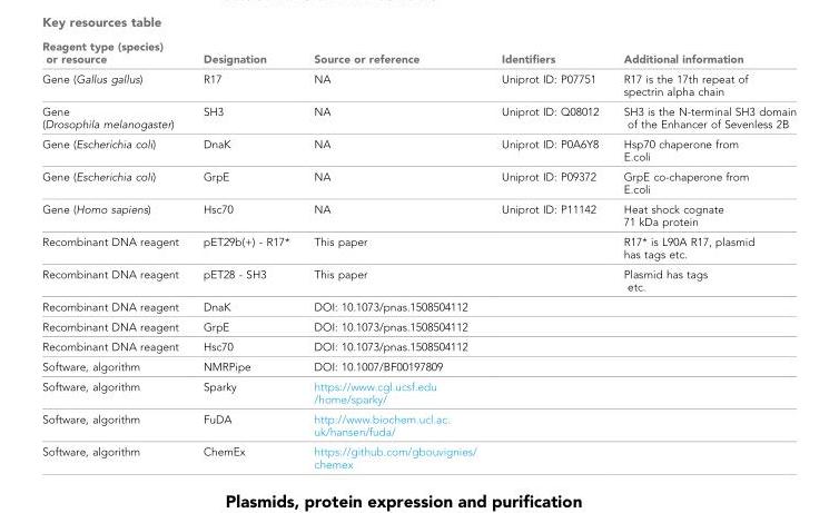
<table><thead><tr><td>Reagent type (species) or resource</td><td>Designation</td><td>Source or reference</td><td>Identifiers</td><td>Additional information</td></tr></thead><tbody><tr><td>Gene (Gallus gallus)</td><td>R17</td><td>NA</td><td>Uniprot ID: P07751</td><td>R17 is the 17th repeat of spectrin alpha chain</td></tr><tr><td>Gene (Drosophila melanogaster)</td><td>SH3</td><td>NA</td><td>Uniprot ID: Q08012</td><td>SH3 is the N-terminal SH3 domain of the Enhancer of Sevenless 2B</td></tr><tr><td>Gene (Escherichia coli)</td><td>DnaK</td><td>NA</td><td>Uniprot ID: P0A6Y8</td><td>Hsp70 chaperone from E.coli</td></tr><tr><td>Gene (Escherichia coli)</td><td>GrpE</td><td>NA</td><td>Uniprot ID: P09372</td><td>GrpE co-chaperone from E.coli</td></tr><tr><td>Gene (Homo sapiens)</td><td>Hsc70</td><td>NA</td><td>Uniprot ID: P11142</td><td>Heat shock cognate 71 kDa protein</td></tr><tr><td>Recombinant DNA reagent</td><td>pET29b(+) - R17*</td><td>This paper</td><td></td><td>R17* is L90A R17, plasmid has tags etc.</td></tr><tr><td>Recombinant DNA reagent</td><td>pET28 - SH3</td><td>This paper</td><td></td><td>Plasmid has tags etc.</td></tr><tr><td>Recombinant DNA reagent</td><td>DnaK</td><td>DOI: 10.1073/pnas.1508504112</td><td></td><td></td></tr><tr><td>Recombinant DNA reagent</td><td>GrpE</td><td>DOI: 10.1073/pnas.1508504112</td><td></td><td></td></tr><tr><td>Recombinant DNA reagent</td><td>Hsc70</td><td>DOI: 10.1073/pnas.1508504112</td><td></td><td></td></tr><tr><td>Software, algorithm</td><td>NMRPipe</td><td>DOI: 10.1007/BF00197809</td><td></td><td></td></tr><tr><td>Software, algorithm</td><td>Sparky</td><td>https://www.cgl.ucsf.edu /home/sparky/</td><td></td><td></td></tr><tr><td>Software, algorithm</td><td>FuDA</td><td>http://www.biochem.ucl.ac. uk/hansen/fuda/</td><td></td><td></td></tr><tr><td>Software, algorithm</td><td>ChemEx</td><td>https://github.com/gbouvignies/ chemex</td><td></td><td></td></tr></tbody></table>